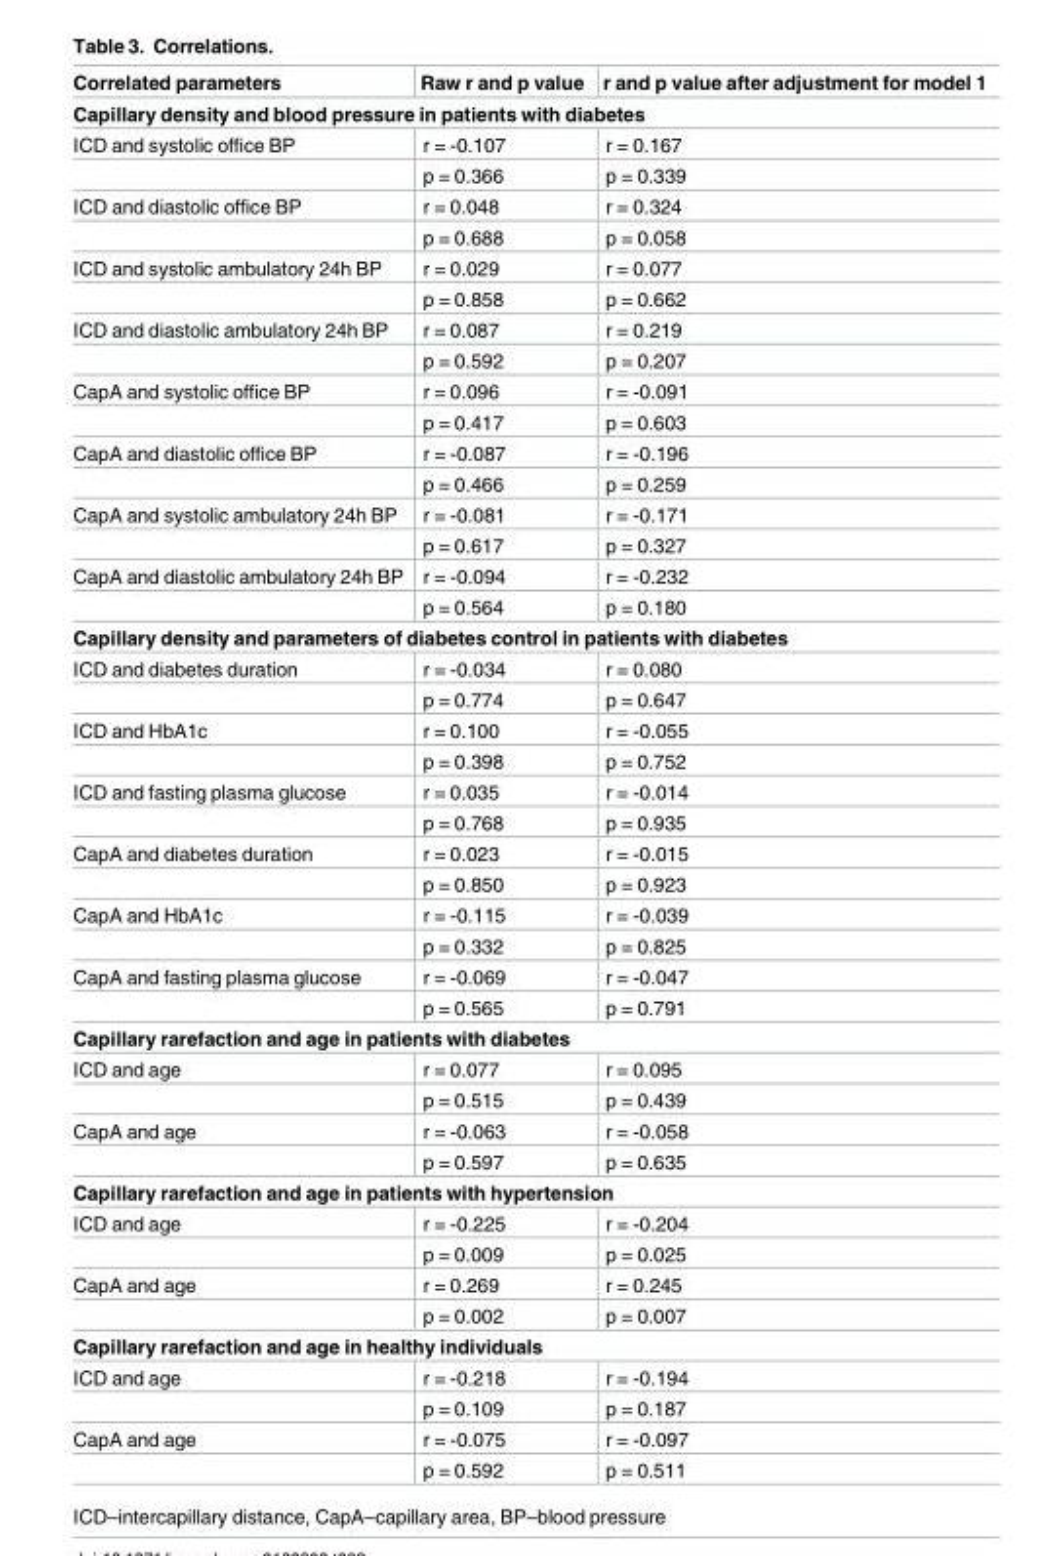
<table><thead><tr><td>Correlated parameters</td><td>Raw r and p value</td><td>r and p value after adjustment for model 1</td></tr></thead><tbody><tr><td colspan="3">Capillary density and blood pressure in patients with diabetes</td></tr><tr><td rowspan="2">ICD and systolic office BP</td><td>r = -0.107</td><td>r = 0.167</td></tr><tr><td>p = 0.366</td><td>p = 0.339</td></tr><tr><td rowspan="2">ICD and diastolic office BP</td><td>r = 0.048</td><td>r = 0.324</td></tr><tr><td>p = 0.688</td><td>p = 0.058</td></tr><tr><td rowspan="2">ICD and systolic ambulatory 24h BP</td><td>r = 0.029</td><td>r = 0.077</td></tr><tr><td>p = 0.858</td><td>p = 0.662</td></tr><tr><td rowspan="2">ICD and diastolic ambulatory 24h BP</td><td>r = 0.087</td><td>r = 0.219</td></tr><tr><td>p = 0.592</td><td>p = 0.207</td></tr><tr><td rowspan="2">CapA and systolic office BP</td><td>r = 0.096</td><td>r = -0.091</td></tr><tr><td>p = 0.417</td><td>p = 0.603</td></tr><tr><td rowspan="2">CapA and diastolic office BP</td><td>r = -0.087</td><td>r = -0.196</td></tr><tr><td>p = 0.466</td><td>p = 0.259</td></tr><tr><td rowspan="2">CapA and systolic ambulatory 24h BP</td><td>r = -0.081</td><td>r = -0.171</td></tr><tr><td>p = 0.617</td><td>p = 0.327</td></tr><tr><td rowspan="2">CapA and diastolic ambulatory 24h BP</td><td>r = -0.094</td><td>r = -0.232</td></tr><tr><td>p = 0.564</td><td>p = 0.180</td></tr><tr><td colspan="3">Capillary density and parameters of diabetes control in patients with diabetes</td></tr><tr><td rowspan="2">ICD and diabetes duration</td><td>r = -0.034</td><td>r = 0.080</td></tr><tr><td>p = 0.774</td><td>p = 0.647</td></tr><tr><td rowspan="2">ICD and HbA1c</td><td>r = 0.100</td><td>r = -0.055</td></tr><tr><td>p = 0.398</td><td>p = 0.752</td></tr><tr><td rowspan="2">ICD and fasting plasma glucose</td><td>r = 0.035</td><td>r = -0.014</td></tr><tr><td>p = 0.768</td><td>p = 0.935</td></tr><tr><td rowspan="2">CapA and diabetes duration</td><td>r = 0.023</td><td>r = -0.015</td></tr><tr><td>p = 0.850</td><td>p = 0.923</td></tr><tr><td rowspan="2">CapA and HbA1c</td><td>r = -0.115</td><td>r = -0.039</td></tr><tr><td>p = 0.332</td><td>p = 0.825</td></tr><tr><td rowspan="2">CapA and fasting plasma glucose</td><td>r = -0.069</td><td>r = -0.047</td></tr><tr><td>p = 0.565</td><td>p = 0.791</td></tr><tr><td colspan="3">Capillary rarefaction and age in patients with diabetes</td></tr><tr><td rowspan="2">ICD and age</td><td>r = 0.077</td><td>r = 0.095</td></tr><tr><td>p = 0.515</td><td>p = 0.439</td></tr><tr><td rowspan="2">CapA and age</td><td>r = -0.063</td><td>r = -0.058</td></tr><tr><td>p = 0.597</td><td>p = 0.635</td></tr><tr><td colspan="3">Capillary rarefaction and age in patients with hypertension</td></tr><tr><td rowspan="2">ICD and age</td><td>r = -0.225</td><td>r = -0.204</td></tr><tr><td>p = 0.009</td><td>p = 0.025</td></tr><tr><td rowspan="2">CapA and age</td><td>r = 0.269</td><td>r = 0.245</td></tr><tr><td>p = 0.002</td><td>p = 0.007</td></tr><tr><td colspan="3">Capillary rarefaction and age in healthy individuals</td></tr><tr><td rowspan="2">ICD and age</td><td>r = -0.218</td><td>r = -0.194</td></tr><tr><td>p = 0.109</td><td>p = 0.187</td></tr><tr><td rowspan="2">CapA and age</td><td>r = -0.075</td><td>r = -0.097</td></tr><tr><td>p = 0.592</td><td>p = 0.511</td></tr></tbody></table>